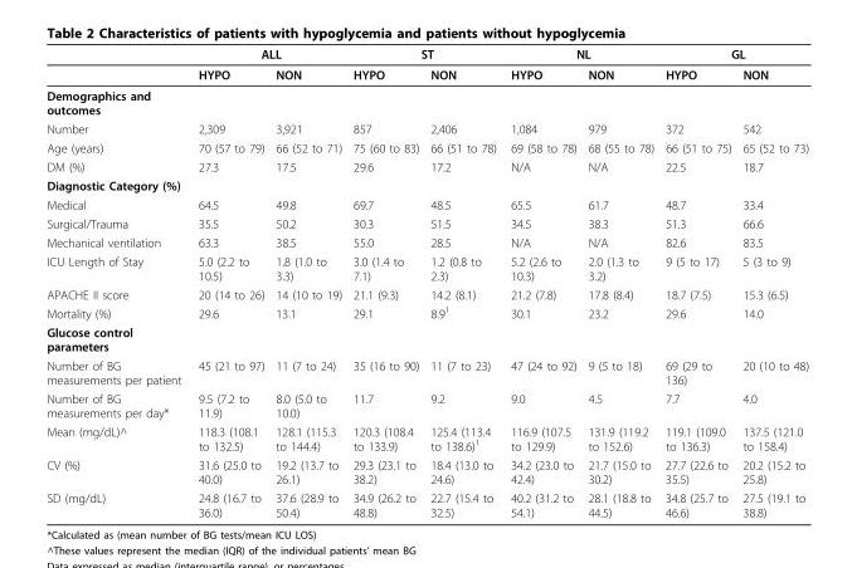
<table><thead><tr><td rowspan="2"></td><td colspan="2">ALL</td><td colspan="2">ST</td><td colspan="2">NL</td><td colspan="2">GL</td></tr><tr><td>HYPO</td><td>NON</td><td>HYPO</td><td>NON</td><td>HYPO</td><td>NON</td><td>HYPO</td><td>NON</td></tr></thead><tbody><tr><td colspan="9">Demographics and outcomes</td></tr><tr><td>Number</td><td>2,309</td><td>3,921</td><td>857</td><td>2,406</td><td>1,084</td><td>979</td><td>372</td><td>542</td></tr><tr><td>Age (years)</td><td>70 (57 to 79)</td><td>66 (52 to 71)</td><td>75 (60 to 83)</td><td>66 (51 to 78)</td><td>69 (58 to 78)</td><td>68 (55 to 78)</td><td>66 (51 to 75)</td><td>65 (52 to 73)</td></tr><tr><td>DM (%)</td><td>27.3</td><td>17.5</td><td>29.6</td><td>17.2</td><td>N/A</td><td>N/A</td><td>22.5</td><td>18.7</td></tr><tr><td colspan="9">Diagnostic Category (%)</td></tr><tr><td>Medical</td><td>64.5</td><td>49.8</td><td>69.7</td><td>48.5</td><td>65.5</td><td>61.7</td><td>48.7</td><td>33.4</td></tr><tr><td>Surgical/Trauma</td><td>35.5</td><td>50.2</td><td>30.3</td><td>51.5</td><td>34.5</td><td>38.3</td><td>51.3</td><td>66.6</td></tr><tr><td>Mechanical ventilation</td><td>63.3</td><td>38.5</td><td>55.0</td><td>28.5</td><td>N/A</td><td>N/A</td><td>82.6</td><td>83.5</td></tr><tr><td>ICU Length of Stay</td><td>5.0 (2.2 to 10.5)</td><td>1.8 (1.0 to 3.3)</td><td>3.0 (1.4 to 7.1)</td><td>1.2 (0.8 to 2.3)</td><td>5.2 (2.6 to 10.3)</td><td>2.0 (1.3 to 3.2)</td><td>9 (5 to 17)</td><td>5 (3 to 9)</td></tr><tr><td>APACHE II score</td><td>20 (14 to 26)</td><td>14 (10 to 19)</td><td>21.1 (9.3)</td><td>14.2 (8.1)</td><td>21.2 (7.8)</td><td>17.8 (8.4)</td><td>18.7 (7.5)</td><td>15.3 (6.5)</td></tr><tr><td>Mortality (%)</td><td>29.6</td><td>13.1</td><td>29.1</td><td>8.9<sup>1</sup></td><td>30.1</td><td>23.2</td><td>29.6</td><td>14.0</td></tr><tr><td colspan="9">Glucose control parameters</td></tr><tr><td>Number of BG measurements per patient</td><td>45 (21 to 97)</td><td>11 (7 to 24)</td><td>35 (16 to 90)</td><td>11 (7 to 23)</td><td>47 (24 to 92)</td><td>9 (5 to 18)</td><td>69 (29 to 136)</td><td>20 (10 to 48)</td></tr><tr><td>Number of BG measurements per day*</td><td>9.5 (7.2 to 11.9)</td><td>8.0 (5.0 to 10.0)</td><td>11.7</td><td>9.2</td><td>9.0</td><td>4.5</td><td>7.7</td><td>4.0</td></tr><tr><td>Mean (mg/dL)^</td><td>118.3 (108.1 to 132.5)</td><td>128.1 (115.3 to 144.4)</td><td>120.3 (108.4 to 133.9)</td><td>125.4 (113.4 to 138.6)<sup>1</sup></td><td>116.9 (107.5 to 129.9)</td><td>131.9 (119.2 to 152.6)</td><td>119.1 (109.0 to 136.3)</td><td>137.5 (121.0 to 158.4)</td></tr><tr><td>CV (%)</td><td>31.6 (25.0 to 40.0)</td><td>19.2 (13.7 to 26.1)</td><td>29.3 (23.1 to 38.2)</td><td>18.4 (13.0 to 24.6)</td><td>34.2 (23.0 to 42.4)</td><td>21.7 (15.0 to 30.2)</td><td>27.7 (22.6 to 35.5)</td><td>20.2 (15.2 to 25.8)</td></tr><tr><td>SD (mg/dL)</td><td>24.8 (16.7 to 36.0)</td><td>37.6 (28.9 to 50.4)</td><td>34.9 (26.2 to 48.8)</td><td>22.7 (15.4 to 32.5)</td><td>40.2 (31.2 to 54.1)</td><td>28.1 (18.8 to 44.5)</td><td>34.8 (25.7 to 46.6)</td><td>27.5 (19.1 to 38.8)</td></tr></tbody></table>